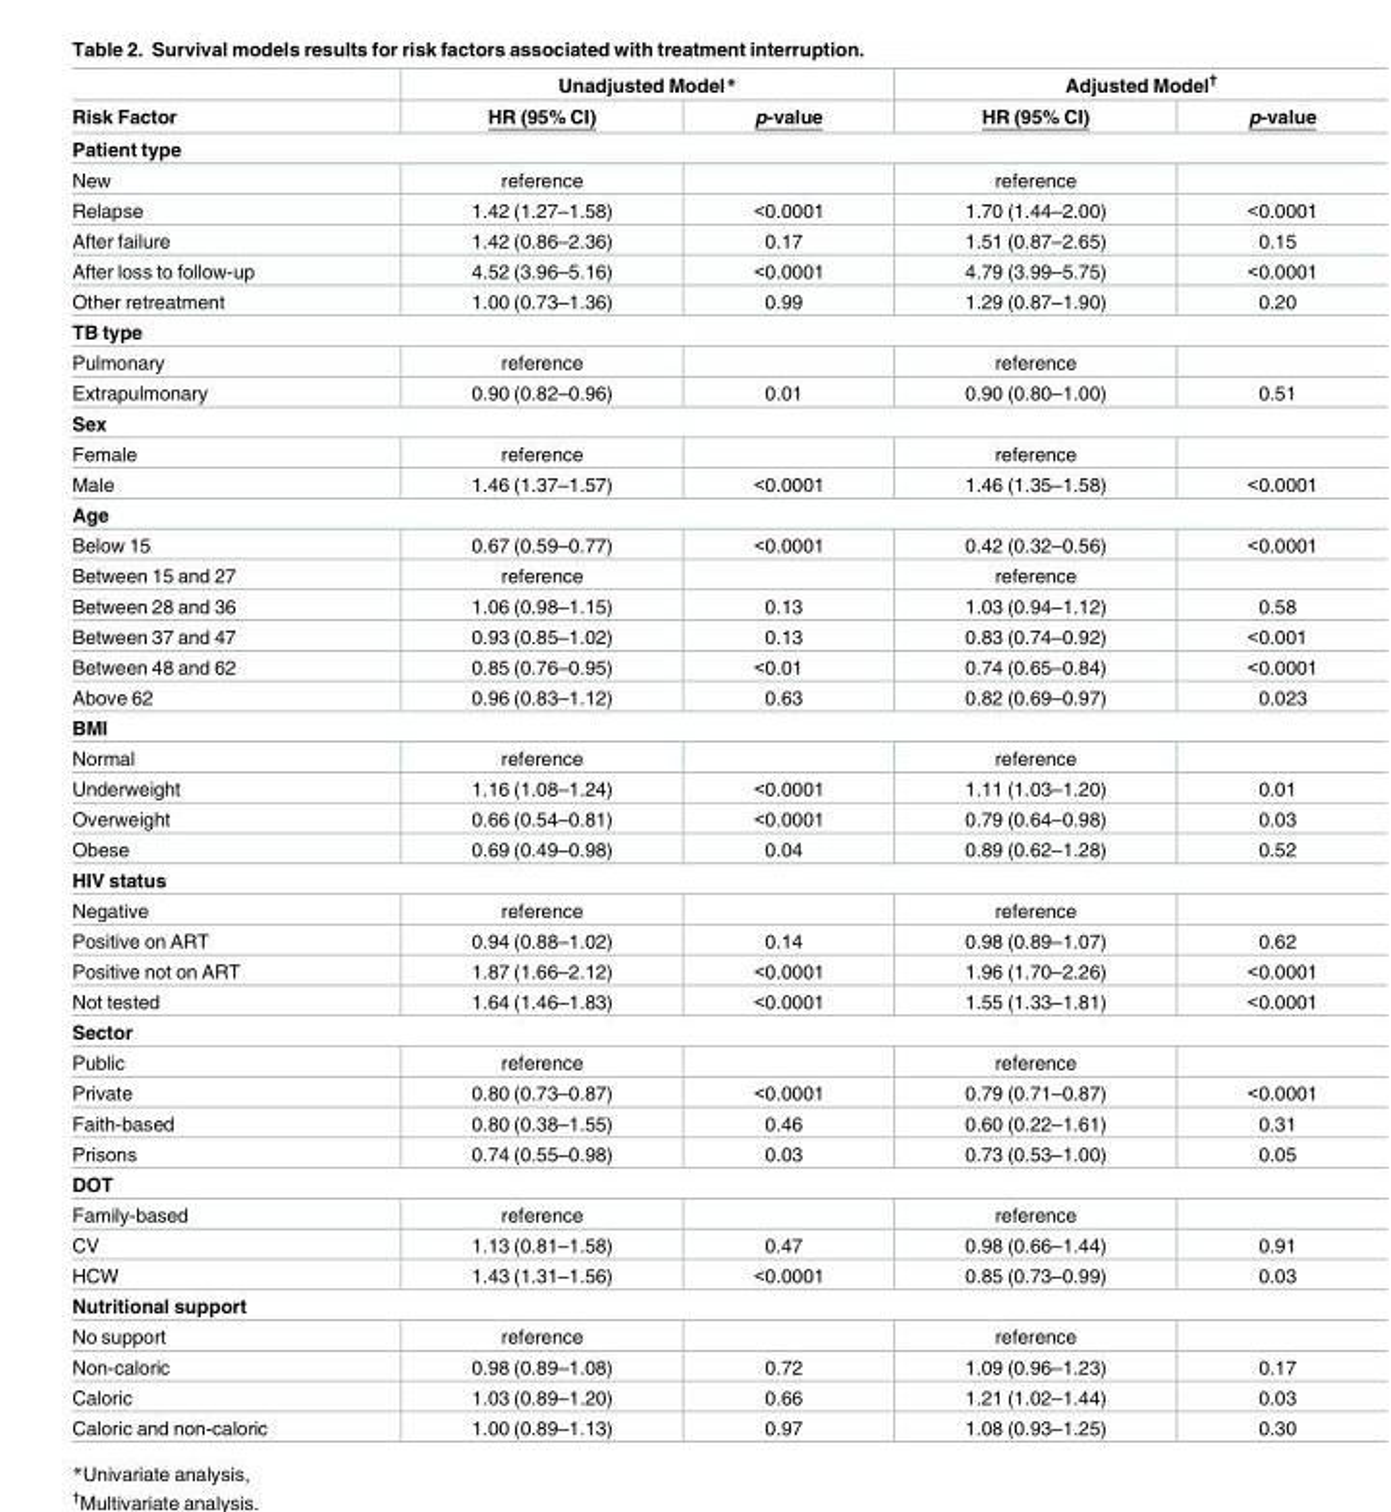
<table><thead><tr><td rowspan="2">Risk Factor</td><td colspan="2">Unadjusted Model*</td><td colspan="2">Adjusted Model<sup>†</sup></td></tr><tr><td>HR (95% CI)</td><td>p-value</td><td>HR (95% CI)</td><td>p-value</td></tr></thead><tbody><tr><td colspan="5">Patient type</td></tr><tr><td>New</td><td>reference</td><td></td><td>reference</td><td></td></tr><tr><td>Relapse</td><td>1.42 (1.27–1.58)</td><td>&lt;0.0001</td><td>1.70 (1.44–2.00)</td><td>&lt;0.0001</td></tr><tr><td>After failure</td><td>1.42 (0.86–2.36)</td><td>0.17</td><td>1.51 (0.87–2.65)</td><td>0.15</td></tr><tr><td>After loss to follow-up</td><td>4.52 (3.96–5.16)</td><td>&lt;0.0001</td><td>4.79 (3.99–5.75)</td><td>&lt;0.0001</td></tr><tr><td>Other retreatment</td><td>1.00 (0.73–1.36)</td><td>0.99</td><td>1.29 (0.87–1.90)</td><td>0.20</td></tr><tr><td colspan="5">TB type</td></tr><tr><td>Pulmonary</td><td>reference</td><td></td><td>reference</td><td></td></tr><tr><td>Extrapulmonary</td><td>0.90 (0.82–0.96)</td><td>0.01</td><td>0.90 (0.80–1.00)</td><td>0.51</td></tr><tr><td colspan="5">Sex</td></tr><tr><td>Female</td><td>reference</td><td></td><td>reference</td><td></td></tr><tr><td>Male</td><td>1.46 (1.37–1.57)</td><td>&lt;0.0001</td><td>1.46 (1.35–1.58)</td><td>&lt;0.0001</td></tr><tr><td colspan="5">Age</td></tr><tr><td>Below 15</td><td>0.67 (0.59–0.77)</td><td>&lt;0.0001</td><td>0.42 (0.32–0.56)</td><td>&lt;0.0001</td></tr><tr><td>Between 15 and 27</td><td>reference</td><td></td><td>reference</td><td></td></tr><tr><td>Between 28 and 36</td><td>1.06 (0.98–1.15)</td><td>0.13</td><td>1.03 (0.94–1.12)</td><td>0.58</td></tr><tr><td>Between 37 and 47</td><td>0.93 (0.85–1.02)</td><td>0.13</td><td>0.83 (0.74–0.92)</td><td>&lt;0.001</td></tr><tr><td>Between 48 and 62</td><td>0.85 (0.76–0.95)</td><td>&lt;0.01</td><td>0.74 (0.65–0.84)</td><td>&lt;0.0001</td></tr><tr><td>Above 62</td><td>0.96 (0.83–1.12)</td><td>0.63</td><td>0.82 (0.69–0.97)</td><td>0.023</td></tr><tr><td colspan="5">BMI</td></tr><tr><td>Normal</td><td>reference</td><td></td><td>reference</td><td></td></tr><tr><td>Underweight</td><td>1.16 (1.08–1.24)</td><td>&lt;0.0001</td><td>1.11 (1.03–1.20)</td><td>0.01</td></tr><tr><td>Overweight</td><td>0.66 (0.54–0.81)</td><td>&lt;0.0001</td><td>0.79 (0.64–0.98)</td><td>0.03</td></tr><tr><td>Obese</td><td>0.69 (0.49–0.98)</td><td>0.04</td><td>0.89 (0.62–1.28)</td><td>0.52</td></tr><tr><td colspan="5">HIV status</td></tr><tr><td>Negative</td><td>reference</td><td></td><td>reference</td><td></td></tr><tr><td>Positive on ART</td><td>0.94 (0.88–1.02)</td><td>0.14</td><td>0.98 (0.89–1.07)</td><td>0.62</td></tr><tr><td>Positive not on ART</td><td>1.87 (1.66–2.12)</td><td>&lt;0.0001</td><td>1.96 (1.70–2.26)</td><td>&lt;0.0001</td></tr><tr><td>Not tested</td><td>1.64 (1.46–1.83)</td><td>&lt;0.0001</td><td>1.55 (1.33–1.81)</td><td>&lt;0.0001</td></tr><tr><td colspan="5">Sector</td></tr><tr><td>Public</td><td>reference</td><td></td><td>reference</td><td></td></tr><tr><td>Private</td><td>0.80 (0.73–0.87)</td><td>&lt;0.0001</td><td>0.79 (0.71–0.87)</td><td>&lt;0.0001</td></tr><tr><td>Faith-based</td><td>0.80 (0.38–1.55)</td><td>0.46</td><td>0.60 (0.22–1.61)</td><td>0.31</td></tr><tr><td>Prisons</td><td>0.74 (0.55–0.98)</td><td>0.03</td><td>0.73 (0.53–1.00)</td><td>0.05</td></tr><tr><td colspan="5">DOT</td></tr><tr><td>Family-based</td><td>reference</td><td></td><td>reference</td><td></td></tr><tr><td>CV</td><td>1.13 (0.81–1.58)</td><td>0.47</td><td>0.98 (0.66–1.44)</td><td>0.91</td></tr><tr><td>HCW</td><td>1.43 (1.31–1.56)</td><td>&lt;0.0001</td><td>0.85 (0.73–0.99)</td><td>0.03</td></tr><tr><td colspan="5">Nutritional support</td></tr><tr><td>No support</td><td>reference</td><td></td><td>reference</td><td></td></tr><tr><td>Non-caloric</td><td>0.98 (0.89–1.08)</td><td>0.72</td><td>1.09 (0.96–1.23)</td><td>0.17</td></tr><tr><td>Caloric</td><td>1.03 (0.89–1.20)</td><td>0.66</td><td>1.21 (1.02–1.44)</td><td>0.03</td></tr><tr><td>Caloric and non-caloric</td><td>1.00 (0.89–1.13)</td><td>0.97</td><td>1.08 (0.93–1.25)</td><td>0.30</td></tr></tbody></table>